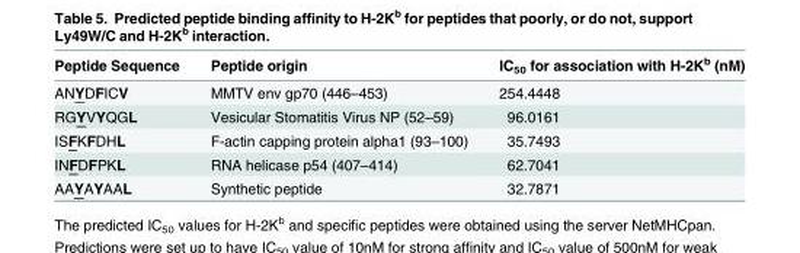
<table><thead><tr><td>Peptide Sequence</td><td>Peptide origin</td><td>IC<sub>50</sub> for association with H-2K<sup>b</sup> (nM)</td></tr></thead><tbody><tr><td>ANYDFICV</td><td>MMTV env gp70 (446–453)</td><td>254.4448</td></tr><tr><td>RGYVYQGL</td><td>Vesicular Stomatitis Virus NP (52–59)</td><td>96.0161</td></tr><tr><td>ISFKFDHL</td><td>F-actin capping protein alpha1 (93–100)</td><td>35.7493</td></tr><tr><td>INFDFPKL</td><td>RNA helicase p54 (407–414)</td><td>62.7041</td></tr><tr><td>AAYAYAAL</td><td>Synthetic peptide</td><td>32.7871</td></tr></tbody></table>